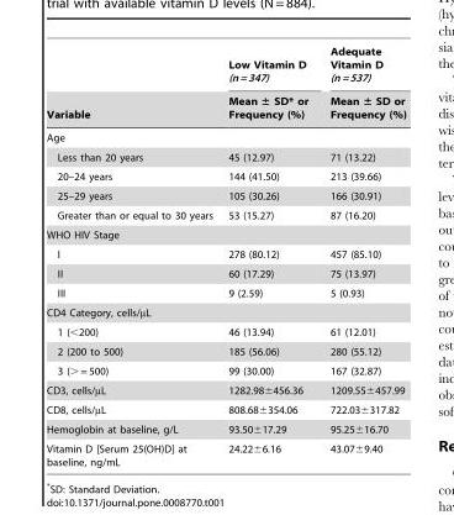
<table><thead><tr><td rowspan="2">Variable</td><td rowspan="2">Low Vitamin D (n = 347) Mean ± SD* or Frequency (%)</td><td rowspan="2">Adequate Vitamin D (n = 537) Mean ± SD or Frequency (%)</td></tr><tr></tr></thead><tbody><tr><td colspan="3">Age</td></tr><tr><td>Less than 20 years</td><td>45 (12.97)</td><td>71 (13.22)</td></tr><tr><td>20–24 years</td><td>144 (41.50)</td><td>213 (39.66)</td></tr><tr><td>25–29 years</td><td>105 (30.26)</td><td>166 (30.91)</td></tr><tr><td>Greater than or equal to 30 years</td><td>53 (15.27)</td><td>87 (16.20)</td></tr><tr><td colspan="3">WHO HIV Stage</td></tr><tr><td>I</td><td>278 (80.12)</td><td>457 (85.10)</td></tr><tr><td>II</td><td>60 (17.29)</td><td>75 (13.97)</td></tr><tr><td>III</td><td>9 (2.59)</td><td>5 (0.93)</td></tr><tr><td colspan="3">CD4 Category, cells/µL</td></tr><tr><td>1 (&lt;200)</td><td>46 (13.94)</td><td>61 (12.01)</td></tr><tr><td>2 (200 to 500)</td><td>185 (56.06)</td><td>280 (55.12)</td></tr><tr><td>3 (&gt; = 500)</td><td>99 (30.00)</td><td>167 (32.87)</td></tr><tr><td>CD3, cells/µL</td><td>1282.98±456.36</td><td>1209.55±457.99</td></tr><tr><td>CD8, cells/µL</td><td>808.68±354.06</td><td>722.03±317.82</td></tr><tr><td>Hemoglobin at baseline, g/L</td><td>93.50±17.29</td><td>95.25±16.70</td></tr><tr><td>Vitamin D [Serum 25(OH)D] at baseline, ng/mL</td><td>24.22±6.16</td><td>43.07±9.40</td></tr></tbody></table>